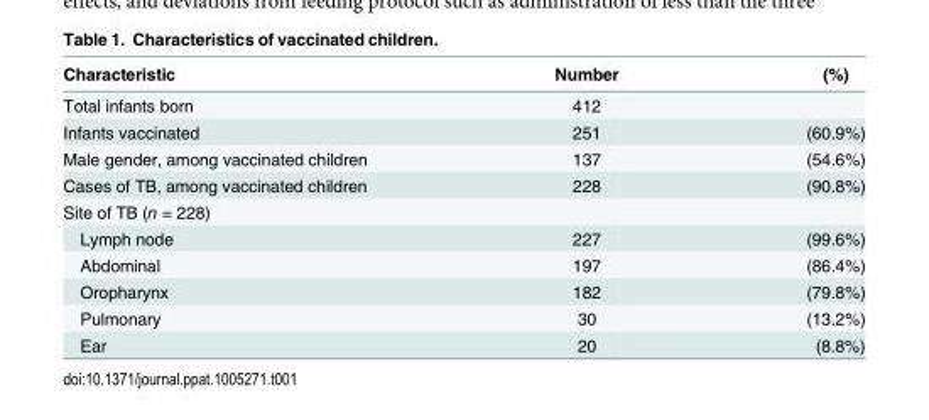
<table><thead><tr><td>Characteristic</td><td>Number</td><td>(%)</td></tr></thead><tbody><tr><td>Total infants born</td><td>412</td><td></td></tr><tr><td>Infants vaccinated</td><td>251</td><td>(60.9%)</td></tr><tr><td>Male gender, among vaccinated children</td><td>137</td><td>(54.6%)</td></tr><tr><td>Cases of TB, among vaccinated children</td><td>228</td><td>(90.8%)</td></tr><tr><td colspan="3">Site of TB (n = 228)</td></tr><tr><td>Lymph node</td><td>227</td><td>(99.6%)</td></tr><tr><td>Abdominal</td><td>197</td><td>(86.4%)</td></tr><tr><td>Oropharynx</td><td>182</td><td>(79.8%)</td></tr><tr><td>Pulmonary</td><td>30</td><td>(13.2%)</td></tr><tr><td>Ear</td><td>20</td><td>(8.8%)</td></tr></tbody></table>